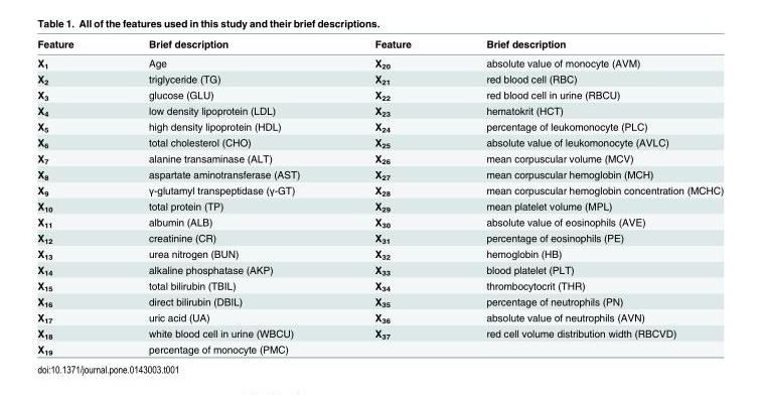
<table><thead><tr><td>Feature</td><td>Brief description</td><td>Feature</td><td>Brief description</td></tr></thead><tbody><tr><td>X<sub>1</sub></td><td>Age</td><td>X<sub>20</sub></td><td>absolute value of monocyte (AVM)</td></tr><tr><td>X<sub>2</sub></td><td>triglyceride (TG)</td><td>X<sub>21</sub></td><td>red blood cell (RBC)</td></tr><tr><td>X<sub>3</sub></td><td>glucose (GLU)</td><td>X<sub>22</sub></td><td>red blood cell in urine (RBCU)</td></tr><tr><td>X<sub>4</sub></td><td>low density lipoprotein (LDL)</td><td>X<sub>23</sub></td><td>hematokrit (HCT)</td></tr><tr><td>X<sub>5</sub></td><td>high density lipoprotein (HDL)</td><td>X<sub>24</sub></td><td>percentage of leukomonocyte (PLC)</td></tr><tr><td>X<sub>6</sub></td><td>total cholesterol (CHO)</td><td>X<sub>25</sub></td><td>absolute value of leukomonocyte (AVLC)</td></tr><tr><td>X<sub>7</sub></td><td>alanine transaminase (ALT)</td><td>X<sub>26</sub></td><td>mean corpuscular volume (MCV)</td></tr><tr><td>X<sub>8</sub></td><td>aspartate aminotransferase (AST)</td><td>X<sub>27</sub></td><td>mean corpuscular hemoglobin (MCH)</td></tr><tr><td>X<sub>9</sub></td><td>γ-glutamyl transpeptidase (γ-GT)</td><td>X<sub>28</sub></td><td>mean corpuscular hemoglobin concentration (MCHC)</td></tr><tr><td>X<sub>10</sub></td><td>total protein (TP)</td><td>X<sub>29</sub></td><td>mean platelet volume (MPL)</td></tr><tr><td>X<sub>11</sub></td><td>albumin (ALB)</td><td>X<sub>30</sub></td><td>absolute value of eosinophils (AVE)</td></tr><tr><td>X<sub>12</sub></td><td>creatinine (CR)</td><td>X<sub>31</sub></td><td>percentage of eosinophils (PE)</td></tr><tr><td>X<sub>13</sub></td><td>urea nitrogen (BUN)</td><td>X<sub>32</sub></td><td>hemoglobin (HB)</td></tr><tr><td>X<sub>14</sub></td><td>alkaline phosphatase (AKP)</td><td>X<sub>33</sub></td><td>blood platelet (PLT)</td></tr><tr><td>X<sub>15</sub></td><td>total bilirubin (TBIL)</td><td>X<sub>34</sub></td><td>thrombocytocrit (THR)</td></tr><tr><td>X<sub>16</sub></td><td>direct bilirubin (DBIL)</td><td>X<sub>35</sub></td><td>percentage of neutrophils (PN)</td></tr><tr><td>X<sub>17</sub></td><td>uric acid (UA)</td><td>X<sub>36</sub></td><td>absolute value of neutrophils (AVN)</td></tr><tr><td>X<sub>18</sub></td><td>white blood cell in urine (WBCU)</td><td>X<sub>37</sub></td><td>red cell volume distribution width (RBCVD)</td></tr><tr><td>X<sub>19</sub></td><td>percentage of monocyte (PMC)</td><td></td><td></td></tr></tbody></table>